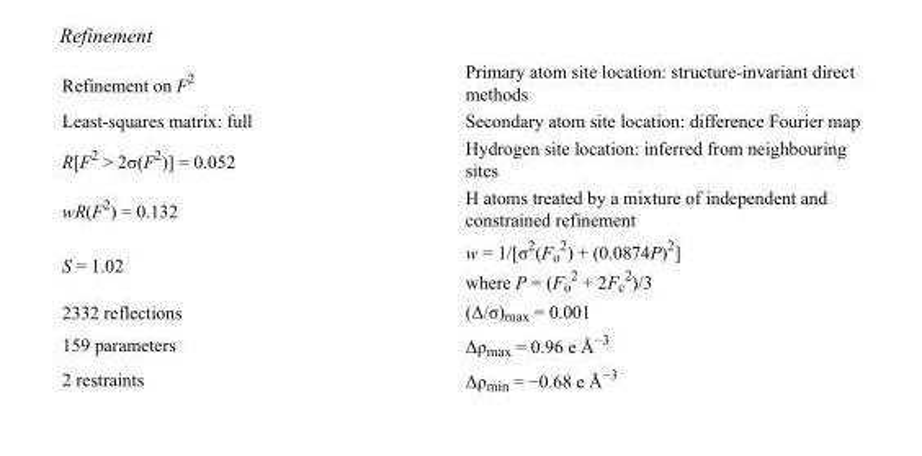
<table><tbody><tr><td>Refinement on F<sup>2</sup></td><td>Primary atom site location: structure-invariant direct methods</td></tr><tr><td>Least-squares matrix: full</td><td>Secondary atom site location: difference Fourier map</td></tr><tr><td>R[F<sup>2</sup> &gt; 2σ(F<sup>2</sup>)] = 0.052</td><td>Hydrogen site location: inferred from neighbouring sites</td></tr><tr><td>wR(F<sup>2</sup>) = 0.132</td><td>H atoms treated by a mixture of independent and constrained refinement</td></tr><tr><td>S = 1.02</td><td>w = 1/[σ<sup>2</sup>(F<sub>o</sub> <sup>2</sup>) + (0.0874P)<sup>2</sup>] where P = (F<sub>o</sub> <sup>2</sup> + 2F<sub>c</sub> <sup>2</sup>)/3</td></tr><tr><td>2332 reflections</td><td>(Δ/σ)<sub>max</sub> = 0.001</td></tr><tr><td>159 parameters</td><td>Δρ<sub>max</sub> = 0.96 e Å<sup>−3</sup></td></tr><tr><td>2 restraints</td><td>Δρ<sub>min</sub> = −0.68 e Å<sup>−3</sup></td></tr></tbody></table>